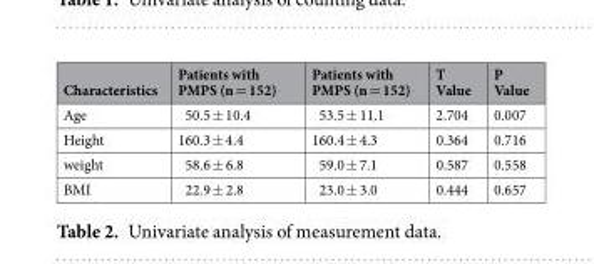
<table><thead><tr><td>Characteristics</td><td>Patients with PMPS (n = 152)</td><td>Patients with PMPS (n = 152)</td><td>T Value</td><td>P Value</td></tr></thead><tbody><tr><td>Age</td><td>50.5 ± 10.4</td><td>53.5 ± 11.1</td><td>2.704</td><td>0.007</td></tr><tr><td>Height</td><td>160.3 ± 4.4</td><td>160.4 ± 4.3</td><td>0.364</td><td>0.716</td></tr><tr><td>weight</td><td>58.6 ± 6.8</td><td>59.0 ± 7.1</td><td>0.587</td><td>0.558</td></tr><tr><td>BMI</td><td>22.9 ± 2.8</td><td>23.0 ± 3.0</td><td>0.444</td><td>0.657</td></tr></tbody></table>